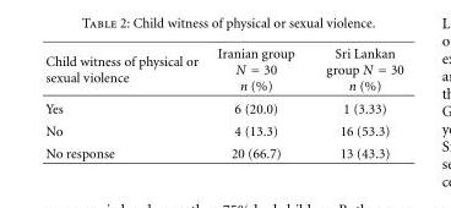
<table><thead><tr><td>Child witness of physical or sexual violence</td><td>Iranian group N = 30 n (%)</td><td>Sri Lankan group N = 30 n (%)</td></tr></thead><tbody><tr><td>Yes</td><td>6 (20.0)</td><td>1 (3.33)</td></tr><tr><td>No</td><td>4 (13.3)</td><td>16 (53.3)</td></tr><tr><td>No response</td><td>20 (66.7)</td><td>13 (43.3)</td></tr></tbody></table>